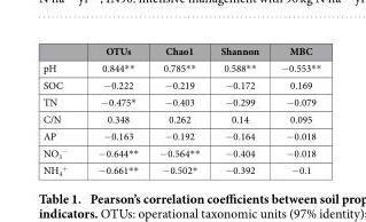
<table><thead><tr><td></td><td>OTUs</td><td>Chao1</td><td>Shannon</td><td>MBC</td></tr></thead><tbody><tr><td>pH</td><td>0.844* *</td><td>0.785* *</td><td>0.588* *</td><td>− 0.553* *</td></tr><tr><td>SOC</td><td>− 0.222</td><td>− 0.219</td><td>− 0.172</td><td>0.169</td></tr><tr><td>TN</td><td>− 0.475*</td><td>− 0.403</td><td>− 0.299</td><td>− 0.079</td></tr><tr><td>C/N</td><td>0.348</td><td>0.262</td><td>0.14</td><td>0.095</td></tr><tr><td>AP</td><td>− 0.163</td><td>− 0.192</td><td>− 0.164</td><td>− 0.018</td></tr><tr><td>NO<sub>3</sub> <sup>−</sup></td><td>− 0.644* *</td><td>− 0.564* *</td><td>− 0.404</td><td>− 0.018</td></tr><tr><td>NH<sub>4</sub> <sup>+</sup></td><td>− 0.661* *</td><td>− 0.502*</td><td>− 0.392</td><td>− 0.1</td></tr></tbody></table>